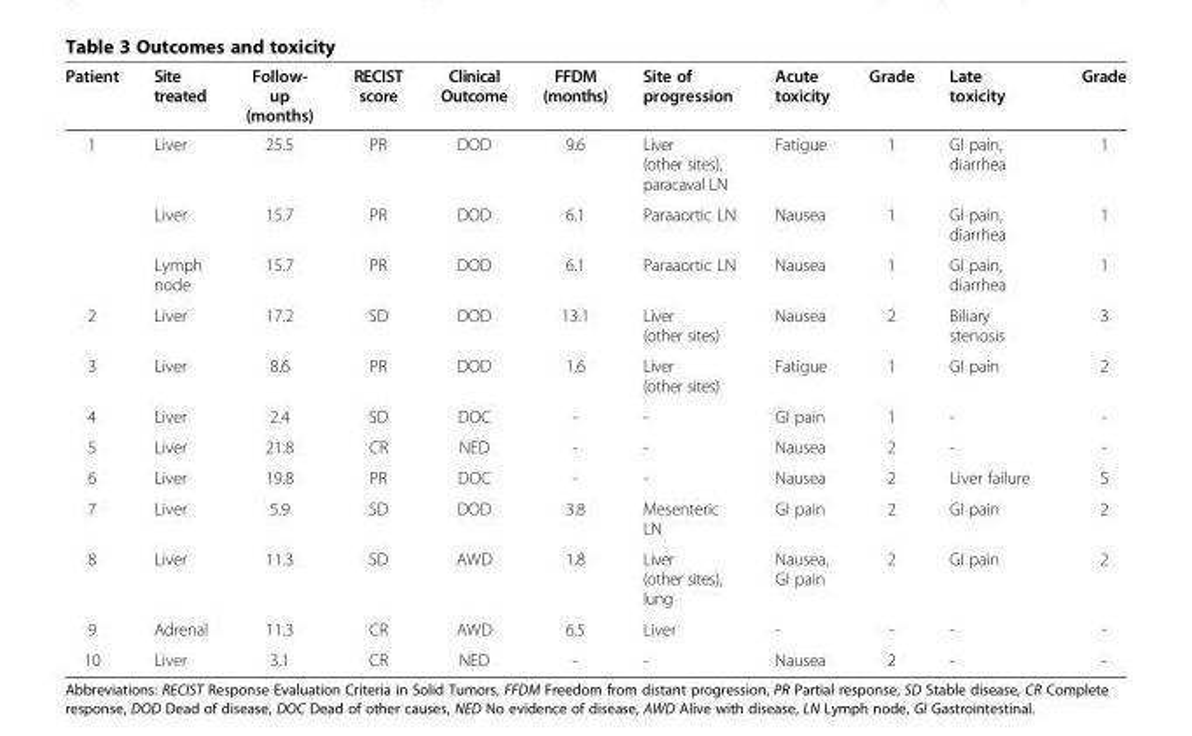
<table><thead><tr><td>Patient</td><td>Site treated</td><td>Follow- up (months)</td><td>RECIST score</td><td>Clinical Outcome</td><td>FFDM (months)</td><td>Site of progression</td><td>Acute toxicity</td><td>Grade</td><td>Late toxicity</td><td>Grade</td></tr></thead><tbody><tr><td rowspan="3">1</td><td>Liver</td><td>25.5</td><td>PR</td><td>DOD</td><td>9.6</td><td>Liver (other sites), paracaval LN</td><td>Fatigue</td><td>1</td><td>GI pain, diarrhea</td><td>1</td></tr><tr><td>Liver</td><td>15.7</td><td>PR</td><td>DOD</td><td>6.1</td><td>Paraaortic LN</td><td>Nausea</td><td>1</td><td>GI pain, diarrhea</td><td>1</td></tr><tr><td>Lymph node</td><td>15.7</td><td>PR</td><td>DOD</td><td>6.1</td><td>Paraaortic LN</td><td>Nausea</td><td>1</td><td>GI pain, diarrhea</td><td>1</td></tr><tr><td>2</td><td>Liver</td><td>17.2</td><td>SD</td><td>DOD</td><td>13.1</td><td>Liver (other sites)</td><td>Nausea</td><td>2</td><td>Biliary stenosis</td><td>3</td></tr><tr><td>3</td><td>Liver</td><td>8.6</td><td>PR</td><td>DOD</td><td>1.6</td><td>Liver (other sites)</td><td>Fatigue</td><td>1</td><td>GI pain</td><td>2</td></tr><tr><td>4</td><td>Liver</td><td>2.4</td><td>SD</td><td>DOC</td><td>-</td><td>-</td><td>GI pain</td><td>1</td><td>-</td><td>-</td></tr><tr><td>5</td><td>Liver</td><td>21.8</td><td>CR</td><td>NED</td><td>-</td><td>-</td><td>Nausea</td><td>2</td><td>-</td><td>-</td></tr><tr><td>6</td><td>Liver</td><td>19.8</td><td>PR</td><td>DOC</td><td>-</td><td>-</td><td>Nausea</td><td>2</td><td>Liver failure</td><td>5</td></tr><tr><td>7</td><td>Liver</td><td>5.9</td><td>SD</td><td>DOD</td><td>3.8</td><td>Mesenteric LN</td><td>GI pain</td><td>2</td><td>GI pain</td><td>2</td></tr><tr><td>8</td><td>Liver</td><td>11.3</td><td>SD</td><td>AWD</td><td>1.8</td><td>Liver (other sites), lung</td><td>Nausea, GI pain</td><td>2</td><td>GI pain</td><td>2</td></tr><tr><td>9</td><td>Adrenal</td><td>11.3</td><td>CR</td><td>AWD</td><td>6.5</td><td>Liver</td><td>-</td><td>-</td><td>-</td><td>-</td></tr><tr><td>10</td><td>Liver</td><td>3.1</td><td>CR</td><td>NED</td><td>-</td><td>-</td><td>Nausea</td><td>2</td><td>-</td><td>-</td></tr></tbody></table>